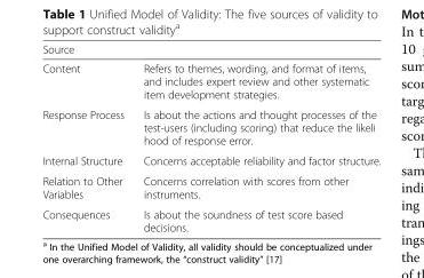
<table><thead><tr><td>Source</td><td></td></tr></thead><tbody><tr><td>Content</td><td>Refers to themes, wording, and format of items, and includes expert review and other systematic item development strategies.</td></tr><tr><td>Response Process</td><td>Is about the actions and thought processes of the test-users (including scoring) that reduce the likeli hood of response error.</td></tr><tr><td>Internal Structure</td><td>Concerns acceptable reliability and factor structure.</td></tr><tr><td>Relation to Other Variables</td><td>Concerns correlation with scores from other instruments.</td></tr><tr><td>Consequences</td><td>Is about the soundness of test score based decisions.</td></tr></tbody></table>